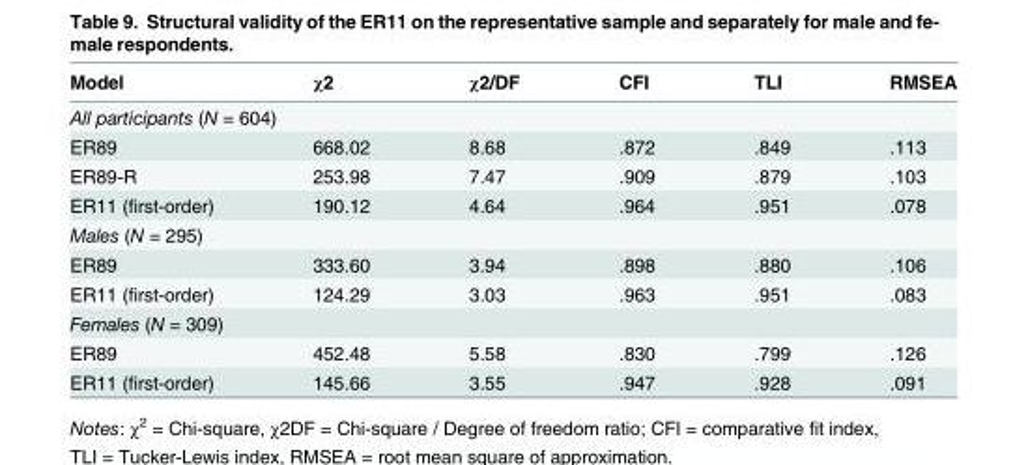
<table><thead><tr><td>Model</td><td>χ2</td><td>χ2/DF</td><td>CFI</td><td>TLI</td><td>RMSEA</td></tr></thead><tbody><tr><td colspan="6">All participants (N = 604)</td></tr><tr><td>ER89</td><td>668.02</td><td>8.68</td><td>.872</td><td>.849</td><td>.113</td></tr><tr><td>ER89-R</td><td>253.98</td><td>7.47</td><td>.909</td><td>.879</td><td>.103</td></tr><tr><td>ER11 (first-order)</td><td>190.12</td><td>4.64</td><td>.964</td><td>.951</td><td>.078</td></tr><tr><td colspan="6">Males (N = 295)</td></tr><tr><td>ER89</td><td>333.60</td><td>3.94</td><td>.898</td><td>.880</td><td>.106</td></tr><tr><td>ER11 (first-order)</td><td>124.29</td><td>3.03</td><td>.963</td><td>.951</td><td>.083</td></tr><tr><td colspan="6">Females (N = 309)</td></tr><tr><td>ER89</td><td>452.48</td><td>5.58</td><td>.830</td><td>.799</td><td>.126</td></tr><tr><td>ER11 (first-order)</td><td>145.66</td><td>3.55</td><td>.947</td><td>.928</td><td>.091</td></tr></tbody></table>